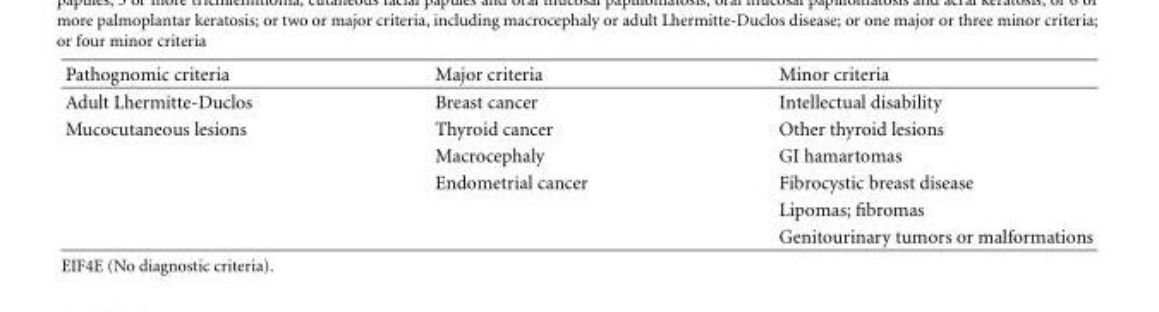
<table><thead><tr><td>Pathognomic criteria</td><td>Major criteria</td><td>Minor criteria</td></tr></thead><tbody><tr><td>Adult Lhermitte-Duclos</td><td>Breast cancer</td><td>Intellectual disability</td></tr><tr><td rowspan="5">Mucocutaneous lesions</td><td>Thyroid cancer</td><td>Other thyroid lesions</td></tr><tr><td>Macrocephaly</td><td>GI hamartomas</td></tr><tr><td>Endometrial cancer</td><td>Fibrocystic breast disease</td></tr><tr><td></td><td>Lipomas; fibromas</td></tr><tr><td></td><td>Genitourinary tumors or malformations</td></tr></tbody></table>